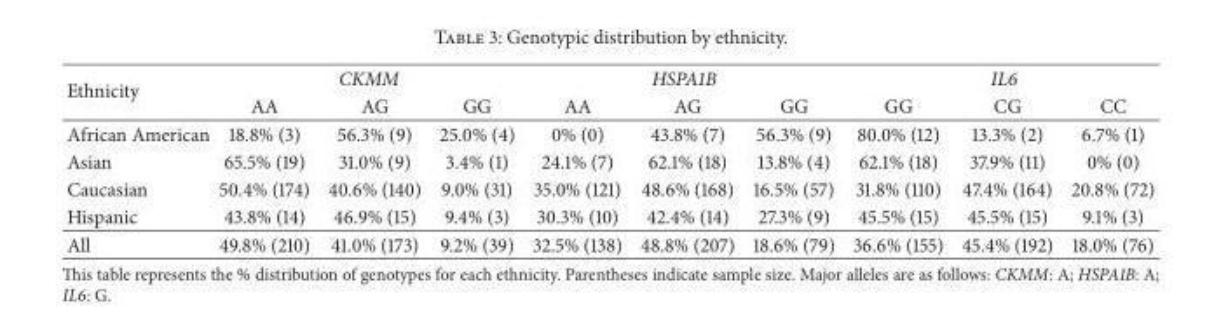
<table><thead><tr><td rowspan="2">Ethnicity</td><td colspan="3">CKMM</td><td colspan="3">HSPA1B</td><td colspan="3">IL6</td></tr><tr><td>AA</td><td>AG</td><td>GG</td><td>AA</td><td>AG</td><td>GG</td><td>GG</td><td>CG</td><td>CC</td></tr></thead><tbody><tr><td>African American</td><td>18.8% (3)</td><td>56.3% (9)</td><td>25.0% (4)</td><td>0% (0)</td><td>43.8% (7)</td><td>56.3% (9)</td><td>80.0% (12)</td><td>13.3% (2)</td><td>6.7% (1)</td></tr><tr><td>Asian</td><td>65.5% (19)</td><td>31.0% (9)</td><td>3.4% (1)</td><td>24.1% (7)</td><td>62.1% (18)</td><td>13.8% (4)</td><td>62.1% (18)</td><td>37.9% (11)</td><td>0% (0)</td></tr><tr><td>Caucasian</td><td>50.4% (174)</td><td>40.6% (140)</td><td>9.0% (31)</td><td>35.0% (121)</td><td>48.6% (168)</td><td>16.5% (57)</td><td>31.8% (110)</td><td>47.4% (164)</td><td>20.8% (72)</td></tr><tr><td>Hispanic</td><td>43.8% (14)</td><td>46.9% (15)</td><td>9.4% (3)</td><td>30.3% (10)</td><td>42.4% (14)</td><td>27.3% (9)</td><td>45.5% (15)</td><td>45.5% (15)</td><td>9.1% (3)</td></tr><tr><td>All</td><td>49.8% (210)</td><td>41.0% (173)</td><td>9.2% (39)</td><td>32.5% (138)</td><td>48.8% (207)</td><td>18.6% (79)</td><td>36.6% (155)</td><td>45.4% (192)</td><td>18.0% (76)</td></tr></tbody></table>